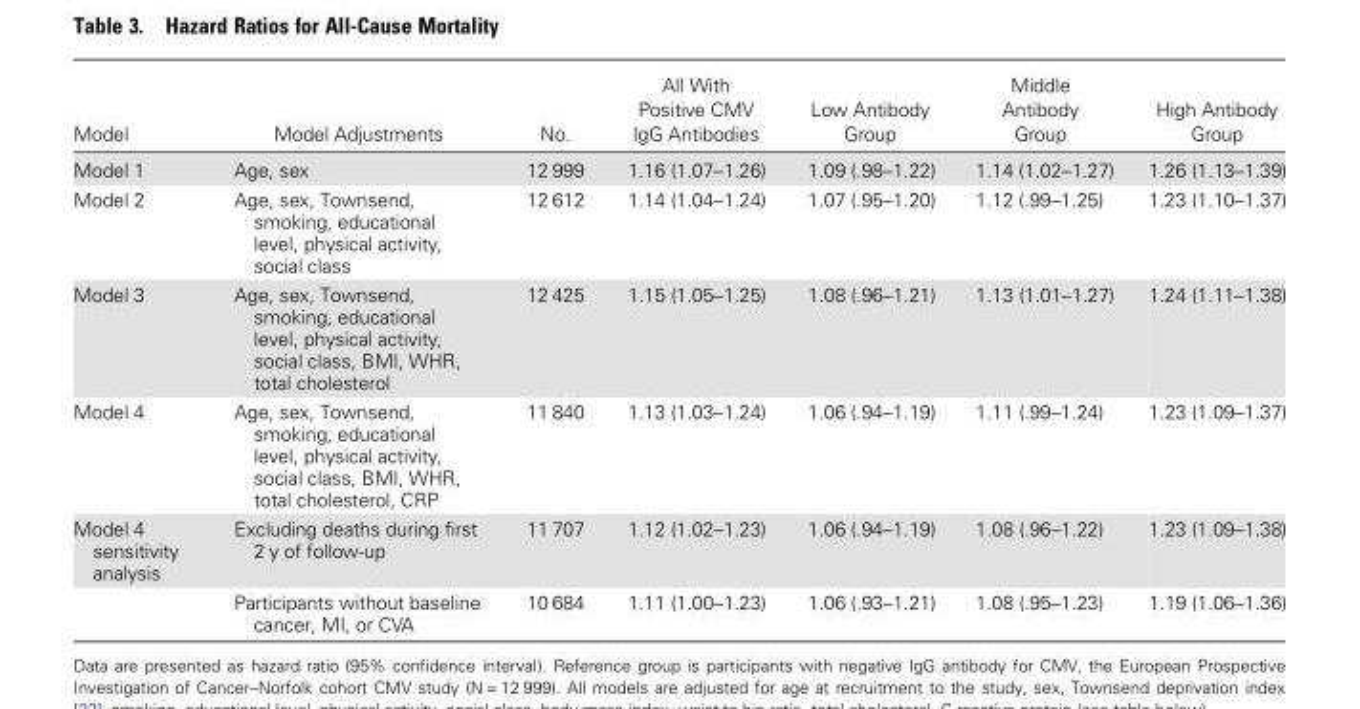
<table><thead><tr><td>Model</td><td>Model Adjustments</td><td>No.</td><td>All With Positive CMV IgG Antibodies</td><td>Low Antibody Group</td><td>Middle Antibody Group</td><td>High Antibody Group</td></tr></thead><tbody><tr><td>Model 1</td><td>Age, sex</td><td>12 999</td><td>1.16 (1.07–1.26)</td><td>1.09 (.98–1.22)</td><td>1.14 (1.02–1.27)</td><td>1.26 (1.13–1.39)</td></tr><tr><td>Model 2</td><td>Age, sex, Townsend, smoking, educational level, physical activity, social class</td><td>12 612</td><td>1.14 (1.04–1.24)</td><td>1.07 (.95–1.20)</td><td>1.12 (.99–1.25)</td><td>1.23 (1.10–1.37)</td></tr><tr><td>Model 3</td><td>Age, sex, Townsend, smoking, educational level, physical activity, social class, BMI, WHR, total cholesterol</td><td>12 425</td><td>1.15 (1.05–1.25)</td><td>1.08 (.96–1.21)</td><td>1.13 (1.01–1.27)</td><td>1.24 (1.11–1.38)</td></tr><tr><td>Model 4</td><td>Age, sex, Townsend, smoking, educational level, physical activity, social class, BMI, WHR, total cholesterol, CRP</td><td>11 840</td><td>1.13 (1.03–1.24)</td><td>1.06 (.94–1.19)</td><td>1.11 (.99–1.24)</td><td>1.23 (1.09–1.37)</td></tr><tr><td rowspan="2">Model 4 sensitivity analysis</td><td>Excluding deaths during first 2 y of follow-up</td><td>11 707</td><td>1.12 (1.02–1.23)</td><td>1.06 (.94–1.19)</td><td>1.08 (.96–1.22)</td><td>1.23 (1.09–1.38)</td></tr><tr><td>Participants without baseline cancer, MI, or CVA</td><td>10 684</td><td>1.11 (1.00–1.23)</td><td>1.06 (.93–1.21)</td><td>1.08 (.95–1.23)</td><td>1.19 (1.06–1.36)</td></tr></tbody></table>